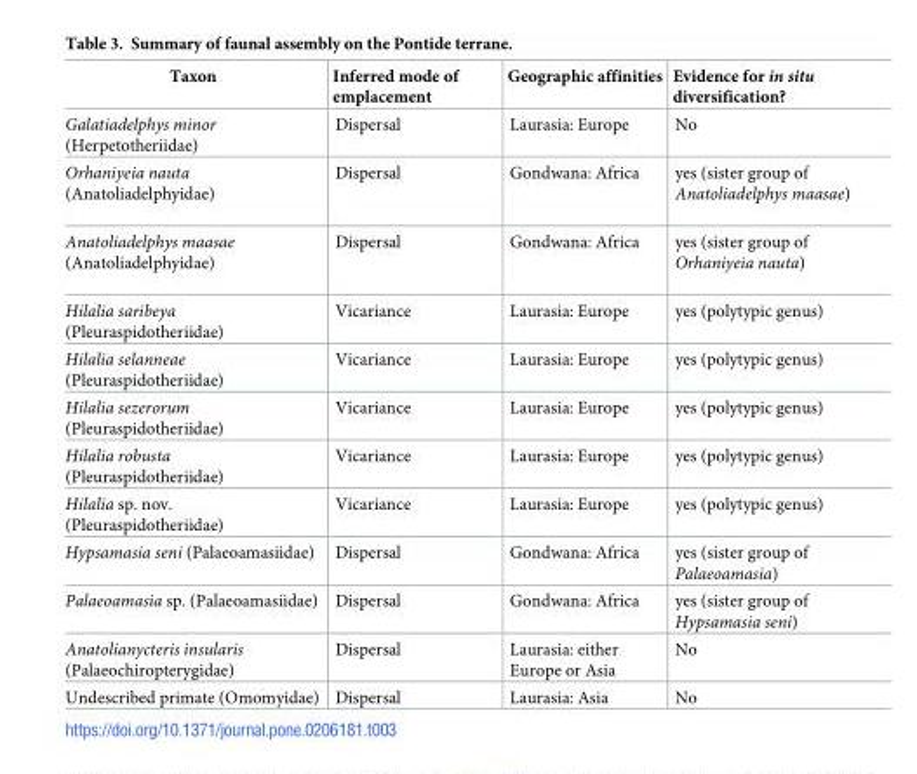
<table><thead><tr><td>Taxon</td><td>Inferred mode of emplacement</td><td>Geographic affinities</td><td>Evidence for in situ diversification?</td></tr></thead><tbody><tr><td>Galatiadelphys minor (Herpetotheriidae)</td><td>Dispersal</td><td>Laurasia: Europe</td><td>No</td></tr><tr><td>Orhaniyeia nauta (Anatoliadelphyidae)</td><td>Dispersal</td><td>Gondwana: Africa</td><td>yes (sister group of Anatoliadelphys maasae)</td></tr><tr><td>Anatoliadelphys maasae (Anatoliadelphyidae)</td><td>Dispersal</td><td>Gondwana: Africa</td><td>yes (sister group of Orhaniyeia nauta)</td></tr><tr><td>Hilalia saribeya (Pleuraspidotheriidae)</td><td>Vicariance</td><td>Laurasia: Europe</td><td>yes (polytypic genus)</td></tr><tr><td>Hilalia selanneae (Pleuraspidotheriidae)</td><td>Vicariance</td><td>Laurasia: Europe</td><td>yes (polytypic genus)</td></tr><tr><td>Hilalia sezerorum (Pleuraspidotheriidae)</td><td>Vicariance</td><td>Laurasia: Europe</td><td>yes (polytypic genus)</td></tr><tr><td>Hilalia robusta (Pleuraspidotheriidae)</td><td>Vicariance</td><td>Laurasia: Europe</td><td>yes (polytypic genus)</td></tr><tr><td>Hilalia sp. nov. (Pleuraspidotheriidae)</td><td>Vicariance</td><td>Laurasia: Europe</td><td>yes (polytypic genus)</td></tr><tr><td>Hypsamasia seni (Palaeoamasiidae)</td><td>Dispersal</td><td>Gondwana: Africa</td><td>yes (sister group of Palaeoamasia)</td></tr><tr><td>Palaeoamasia sp. (Palaeoamasiidae)</td><td>Dispersal</td><td>Gondwana: Africa</td><td>yes (sister group of Hypsamasia seni)</td></tr><tr><td>Anatolianycteris insularis (Palaeochiropterygidae)</td><td>Dispersal</td><td>Laurasia: either Europe or Asia</td><td>No</td></tr><tr><td>Undescribed primate (Omomyidae)</td><td>Dispersal</td><td>Laurasia: Asia</td><td>No</td></tr></tbody></table>